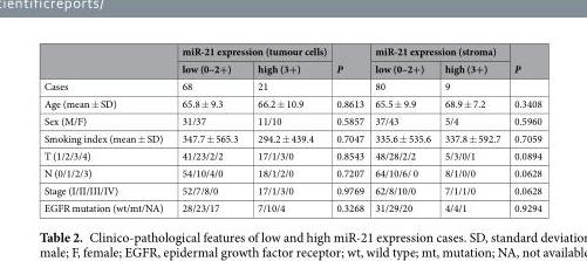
<table><thead><tr><td rowspan="2"></td><td colspan="2">miR-21 expression (tumour cells)</td><td rowspan="2">P</td><td colspan="2">miR-21 expression (stroma)</td><td rowspan="2">P</td></tr><tr><td>low (0–2+)</td><td>high (3+)</td><td>low (0–2+)</td><td>high (3+)</td></tr></thead><tbody><tr><td>Cases</td><td>68</td><td>21</td><td></td><td>80</td><td>9</td><td></td></tr><tr><td>Age (mean ± SD)</td><td>65.8 ± 9.3</td><td>66.2 ± 10.9</td><td>0.8613</td><td>65.5 ± 9.9</td><td>68.9 ± 7.2</td><td>0.3408</td></tr><tr><td>Sex (M/F)</td><td>31/37</td><td>11/10</td><td>0.5857</td><td>37/43</td><td>5/4</td><td>0.5960</td></tr><tr><td>Smoking index (mean ± SD)</td><td>347.7 ± 565.3</td><td>294.2 ± 439.4</td><td>0.7047</td><td>335.6 ± 535.6</td><td>337.8 ± 592.7</td><td>0.7059</td></tr><tr><td>T (1/2/3/4)</td><td>41/23/2/2</td><td>17/1/3/0</td><td>0.8543</td><td>48/28/2/2</td><td>5/3/0/1</td><td>0.0894</td></tr><tr><td>N (0/1/2/3)</td><td>54/10/4/0</td><td>18/1/2/0</td><td>0.7207</td><td>64/10/6/ 0</td><td>8/1/0/0</td><td>0.0628</td></tr><tr><td>Stage (I/II/III/IV)</td><td>52/7/8/0</td><td>17/1/3/0</td><td>0.9769</td><td>62/8/10/0</td><td>7/1/1/0</td><td>0.0628</td></tr><tr><td>EGFR mutation (wt/mt/NA)</td><td>28/23/17</td><td>7/10/4</td><td>0.3268</td><td>31/29/20</td><td>4/4/1</td><td>0.9294</td></tr></tbody></table>